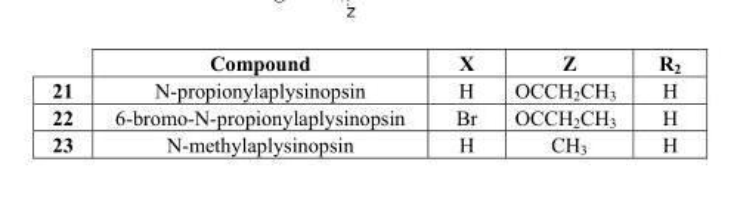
<table><thead><tr><td></td><td>Compound</td><td>X</td><td>Z</td><td>R<sub>2</sub></td></tr></thead><tbody><tr><td>21</td><td>N-propionylaplysinopsin</td><td>H</td><td>OCCH<sub>2</sub>CH<sub>3</sub></td><td>H</td></tr><tr><td>22</td><td>6-bromo-N-propionylaplysinopsin</td><td>Br</td><td>OCCH<sub>2</sub>CH<sub>3</sub></td><td>H</td></tr><tr><td>23</td><td>N-methylaplysinopsin</td><td>H</td><td>CH<sub>3</sub></td><td>H</td></tr></tbody></table>